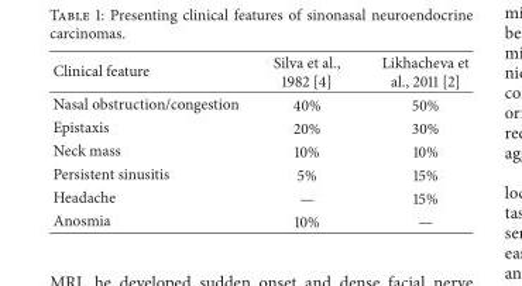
<table><thead><tr><td>Clinical feature</td><td>Silva et al., 1982 [4]</td><td>Likhacheva et al., 2011 [2]</td></tr></thead><tbody><tr><td>Nasal obstruction/congestion</td><td>40%</td><td>50%</td></tr><tr><td>Epistaxis</td><td>20%</td><td>30%</td></tr><tr><td>Neck mass</td><td>10%</td><td>10%</td></tr><tr><td>Persistent sinusitis</td><td>5%</td><td>15%</td></tr><tr><td>Headache</td><td>—</td><td>15%</td></tr><tr><td>Anosmia</td><td>10%</td><td>—</td></tr></tbody></table>